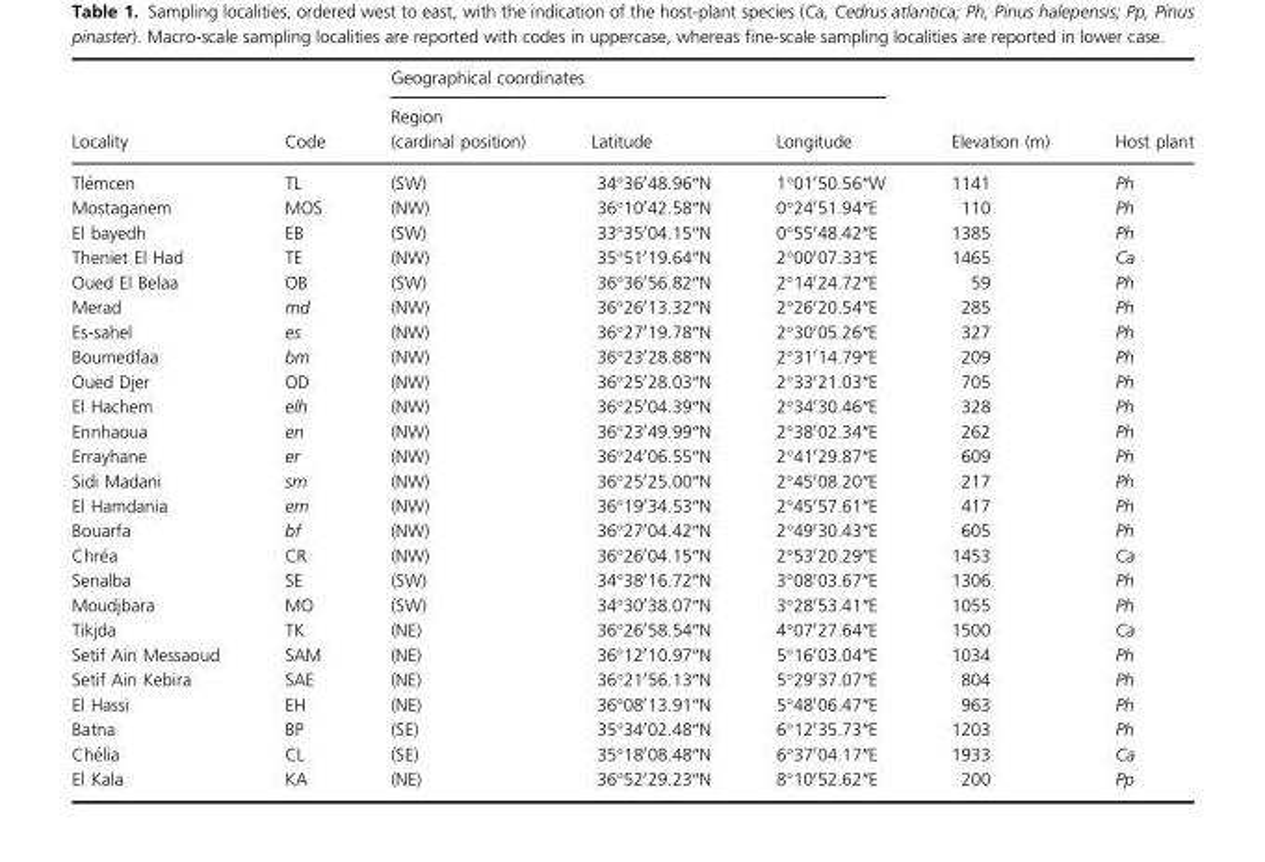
<table><thead><tr><td rowspan="2">Locality</td><td rowspan="2">Code</td><td colspan="3">Geographical coordinates</td><td rowspan="2">Elevation (m)</td><td rowspan="2">Host plant</td></tr><tr><td>Region (cardinal position)</td><td>Latitude</td><td>Longitude</td></tr></thead><tbody><tr><td>Tl�emcen</td><td>TL</td><td>(SW)</td><td>34°36′48.96″N</td><td>1°01′50.56″W</td><td>1141</td><td>Ph</td></tr><tr><td>Mostaganem</td><td>MOS</td><td>(NW)</td><td>36°10′42.58″N</td><td>0°24′51.94″E</td><td>110</td><td>Ph</td></tr><tr><td>El bayedh</td><td>EB</td><td>(SW)</td><td>33°35′04.15″N</td><td>0°55′48.42″E</td><td>1385</td><td>Ph</td></tr><tr><td>Theniet El Had</td><td>TE</td><td>(NW)</td><td>35°51′19.64″N</td><td>2°00′07.33″E</td><td>1465</td><td>Ca</td></tr><tr><td>Oued El Belaa</td><td>OB</td><td>(SW)</td><td>36°36′56.82″N</td><td>2°14′24.72″E</td><td>59</td><td>Ph</td></tr><tr><td>Merad</td><td>md</td><td>(NW)</td><td>36°26′13.32″N</td><td>2°26′20.54″E</td><td>285</td><td>Ph</td></tr><tr><td>Es-sahel</td><td>es</td><td>(NW)</td><td>36°27′19.78″N</td><td>2°30′05.26″E</td><td>327</td><td>Ph</td></tr><tr><td>Boumedfaa</td><td>bm</td><td>(NW)</td><td>36°23′28.88″N</td><td>2°31′14.79″E</td><td>209</td><td>Ph</td></tr><tr><td>Oued Djer</td><td>OD</td><td>(NW)</td><td>36°25′28.03″N</td><td>2°33′21.03″E</td><td>705</td><td>Ph</td></tr><tr><td>El Hachem</td><td>elh</td><td>(NW)</td><td>36°25′04.39″N</td><td>2°34′30.46″E</td><td>328</td><td>Ph</td></tr><tr><td>Ennhaoua</td><td>en</td><td>(NW)</td><td>36°23′49.99″N</td><td>2°38′02.34″E</td><td>262</td><td>Ph</td></tr><tr><td>Errayhane</td><td>er</td><td>(NW)</td><td>36°24′06.55″N</td><td>2°41′29.87″E</td><td>609</td><td>Ph</td></tr><tr><td>Sidi Madani</td><td>sm</td><td>(NW)</td><td>36°25′25.00″N</td><td>2°45′08.20″E</td><td>217</td><td>Ph</td></tr><tr><td>El Hamdania</td><td>em</td><td>(NW)</td><td>36°19′34.53″N</td><td>2°45′57.61″E</td><td>417</td><td>Ph</td></tr><tr><td>Bouarfa</td><td>bf</td><td>(NW)</td><td>36°27′04.42″N</td><td>2°49′30.43″E</td><td>605</td><td>Ph</td></tr><tr><td>Chr�ea</td><td>CR</td><td>(NW)</td><td>36°26′04.15″N</td><td>2°53′20.29″E</td><td>1453</td><td>Ca</td></tr><tr><td>Senalba</td><td>SE</td><td>(SW)</td><td>34°38′16.72″N</td><td>3°08′03.67″E</td><td>1306</td><td>Ph</td></tr><tr><td>Moudjbara</td><td>MO</td><td>(SW)</td><td>34°30′38.07″N</td><td>3°28′53.41″E</td><td>1055</td><td>Ph</td></tr><tr><td>Tikjda</td><td>TK</td><td>(NE)</td><td>36°26′58.54″N</td><td>4°07′27.64″E</td><td>1500</td><td>Ca</td></tr><tr><td>Setif Ain Messaoud</td><td>SAM</td><td>(NE)</td><td>36°12′10.97″N</td><td>5°16′03.04″E</td><td>1034</td><td>Ph</td></tr><tr><td>Setif Ain Kebira</td><td>SAE</td><td>(NE)</td><td>36°21′56.13″N</td><td>5°29′37.07″E</td><td>804</td><td>Ph</td></tr><tr><td>El Hassi</td><td>EH</td><td>(NE)</td><td>36°08′13.91″N</td><td>5°48′06.47″E</td><td>963</td><td>Ph</td></tr><tr><td>Batna</td><td>BP</td><td>(SE)</td><td>35°34′02.48″N</td><td>6°12′35.73″E</td><td>1203</td><td>Ph</td></tr><tr><td>Ch�elia</td><td>CL</td><td>(SE)</td><td>35°18′08.48″N</td><td>6°37′04.17″E</td><td>1933</td><td>Ca</td></tr><tr><td>El Kala</td><td>KA</td><td>(NE)</td><td>36°52′29.23″N</td><td>8°10′52.62″E</td><td>200</td><td>Pp</td></tr></tbody></table>